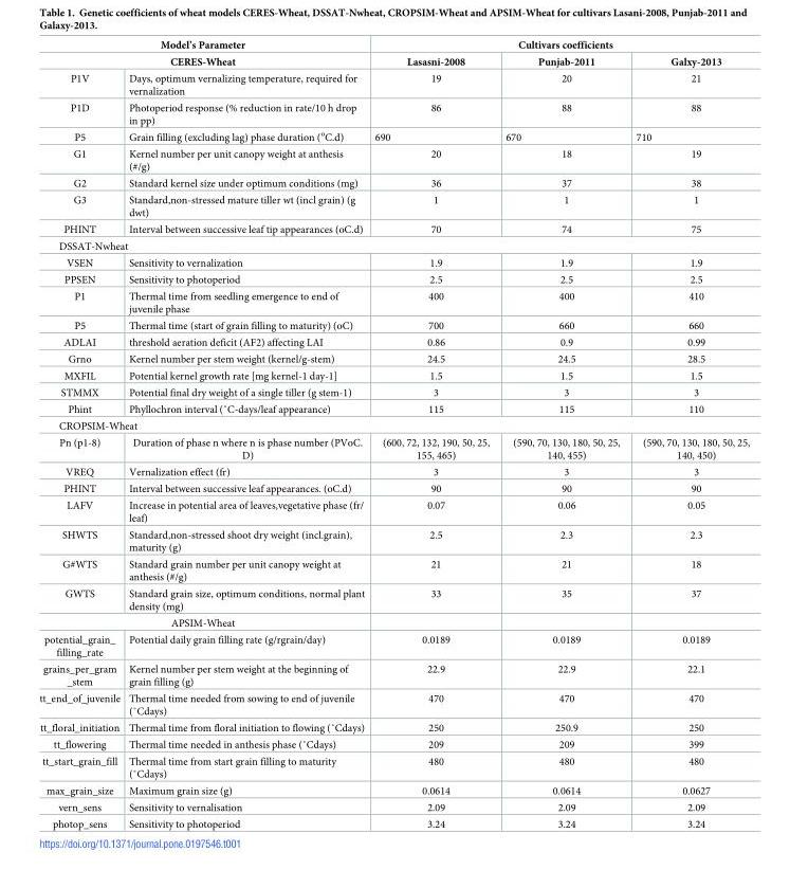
<table><thead><tr><td rowspan="2" colspan="2">Model’s Parameter CERES-Wheat</td><td colspan="3">Cultivars coefficients</td></tr><tr><td rowspan="2">Lasasni-2008 19</td><td rowspan="2">Punjab-2011 20</td><td rowspan="2">Galxy-2013 21</td></tr><tr><td>P1V</td><td>Days, optimum vernalizing temperature, required for vernalization</td></tr></thead><tbody><tr><td>P1D</td><td>Photoperiod response (% reduction in rate/10 h drop in pp)</td><td>86</td><td>88</td><td>88</td></tr><tr><td>P5</td><td>Grain filling (excluding lag) phase duration (<sup>o</sup>C.d)</td><td>690</td><td>670</td><td>710</td></tr><tr><td>G1</td><td>Kernel number per unit canopy weight at anthesis (#/g)</td><td>20</td><td>18</td><td>19</td></tr><tr><td>G2</td><td>Standard kernel size under optimum conditions (mg)</td><td>36</td><td>37</td><td>38</td></tr><tr><td>G3</td><td>Standard,non-stressed mature tiller wt (incl grain) (g dwt)</td><td>1</td><td>1</td><td>1</td></tr><tr><td>PHINT</td><td>Interval between successive leaf tip appearances (oC.d)</td><td>70</td><td>74</td><td>75</td></tr><tr><td colspan="5">DSSAT-Nwheat</td></tr><tr><td>VSEN</td><td>Sensitivity to vernalization</td><td>1.9</td><td>1.9</td><td>1.9</td></tr><tr><td>PPSEN</td><td>Sensitivity to photoperiod</td><td>2.5</td><td>2.5</td><td>2.5</td></tr><tr><td>P1</td><td>Thermal time from seedling emergence to end of juvenile phase</td><td>400</td><td>400</td><td>410</td></tr><tr><td>P5</td><td>Thermal time (start of grain filling to maturity) (oC)</td><td>700</td><td>660</td><td>660</td></tr><tr><td>ADLAI</td><td>threshold aeration deficit (AF2) affecting LAI</td><td>0.86</td><td>0.9</td><td>0.99</td></tr><tr><td>Grno</td><td>Kernel number per stem weight (kernel/g-stem)</td><td>24.5</td><td>24.5</td><td>28.5</td></tr><tr><td>MXFIL</td><td>Potential kernel growth rate [mg kernel-1 day-1]</td><td>1.5</td><td>1.5</td><td>1.5</td></tr><tr><td>STMMX</td><td>Potential final dry weight of a single tiller (g stem-1)</td><td>3</td><td>3</td><td>3</td></tr><tr><td>Phint</td><td>Phyllochron interval (˚C-days/leaf appearance)</td><td>115</td><td>115</td><td>110</td></tr><tr><td colspan="5">CROPSIM-Wheat</td></tr><tr><td>Pn (p1-8)</td><td>Duration of phase n where n is phase number (PVoC. D)</td><td>(600, 72, 132, 190, 50, 25, 155, 465)</td><td>(590, 70, 130, 180, 50, 25, 140, 455)</td><td>(590, 70, 130, 180, 50, 25, 140, 450)</td></tr><tr><td>VREQ</td><td>Vernalization effect (fr)</td><td>3</td><td>3</td><td>3</td></tr><tr><td>PHINT</td><td>Interval between successive leaf appearances. (oC.d)</td><td>90</td><td>90</td><td>90</td></tr><tr><td>LAFV</td><td>Increase in potential area of leaves,vegetative phase (fr/ leaf)</td><td>0.07</td><td>0.06</td><td>0.05</td></tr><tr><td>SHWTS</td><td>Standard,non-stressed shoot dry weight (incl.grain), maturity (g)</td><td>2.5</td><td>2.3</td><td>2.3</td></tr><tr><td>G#WTS</td><td>Standard grain number per unit canopy weight at anthesis (#/g)</td><td>21</td><td>21</td><td>18</td></tr><tr><td>GWTS</td><td>Standard grain size, optimum conditions, normal plant density (mg)</td><td>33</td><td>35</td><td>37</td></tr><tr><td colspan="5">APSIM-Wheat</td></tr><tr><td>potential_grain_ filling_rate</td><td>Potential daily grain filling rate (g/rgrain/day)</td><td>0.0189</td><td>0.0189</td><td>0.0189</td></tr><tr><td>grains_per_gram _stem</td><td>Kernel number per stem weight at the beginning of grain filling (g)</td><td>22.9</td><td>22.9</td><td>22.1</td></tr><tr><td>tt_end_of_juvenile</td><td>Thermal time needed from sowing to end of juvenile (˚Cdays)</td><td>470</td><td>470</td><td>470</td></tr><tr><td>tt_floral_initiation</td><td>Thermal time from floral initiation to flowing (˚Cdays)</td><td>250</td><td>250.9</td><td>250</td></tr><tr><td>tt_flowering</td><td>Thermal time needed in anthesis phase (˚Cdays)</td><td>209</td><td>209</td><td>399</td></tr><tr><td>tt_start_grain_fill</td><td>Thermal time from start grain filling to maturity (˚Cdays)</td><td>480</td><td>480</td><td>480</td></tr><tr><td>max_grain_size</td><td>Maximum grain size (g)</td><td>0.0614</td><td>0.0614</td><td>0.0627</td></tr><tr><td>vern_sens</td><td>Sensitivity to vernalisation</td><td>2.09</td><td>2.09</td><td>2.09</td></tr><tr><td>photop_sens</td><td>Sensitivity to photoperiod</td><td>3.24</td><td>3.24</td><td>3.24</td></tr></tbody></table>